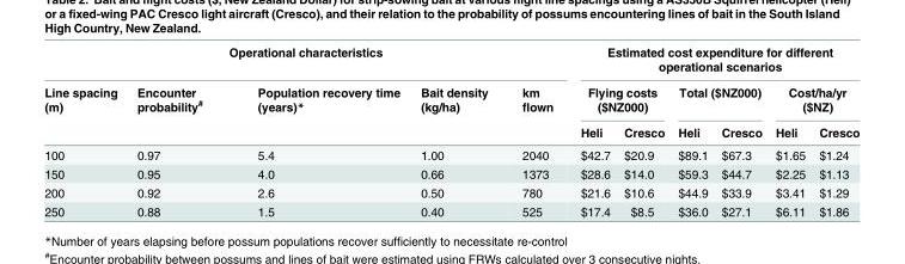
<table><thead><tr><td colspan="5">Operational characteristics</td><td colspan="6">Estimated cost expenditure for different operational scenarios</td></tr><tr><td rowspan="2">Line spacing (m)</td><td rowspan="2">Encounter probability<sup>#</sup></td><td rowspan="2">Population recovery time (years)*</td><td rowspan="2">Bait density (kg/ha)</td><td rowspan="2">km flown</td><td colspan="2">Flying costs ($NZ000)</td><td colspan="2">Total ($NZ000)</td><td colspan="2">Cost/ha/yr ($NZ)</td></tr><tr><td>Heli</td><td>Cresco</td><td>Heli</td><td>Cresco</td><td>Heli</td><td>Cresco</td></tr></thead><tbody><tr><td>100</td><td>0.97</td><td>5.4</td><td>1.00</td><td>2040</td><td>$42.7</td><td>$20.9</td><td>$89.1</td><td>$67.3</td><td>$1.65</td><td>$1.24</td></tr><tr><td>150</td><td>0.95</td><td>4.0</td><td>0.66</td><td>1373</td><td>$28.6</td><td>$14.0</td><td>$59.3</td><td>$44.7</td><td>$2.25</td><td>$1.13</td></tr><tr><td>200</td><td>0.92</td><td>2.6</td><td>0.50</td><td>780</td><td>$21.6</td><td>$10.6</td><td>$44.9</td><td>$33.9</td><td>$3.41</td><td>$1.29</td></tr><tr><td>250</td><td>0.88</td><td>1.5</td><td>0.40</td><td>525</td><td>$17.4</td><td>$8.5</td><td>$36.0</td><td>$27.1</td><td>$6.11</td><td>$1.86</td></tr></tbody></table>